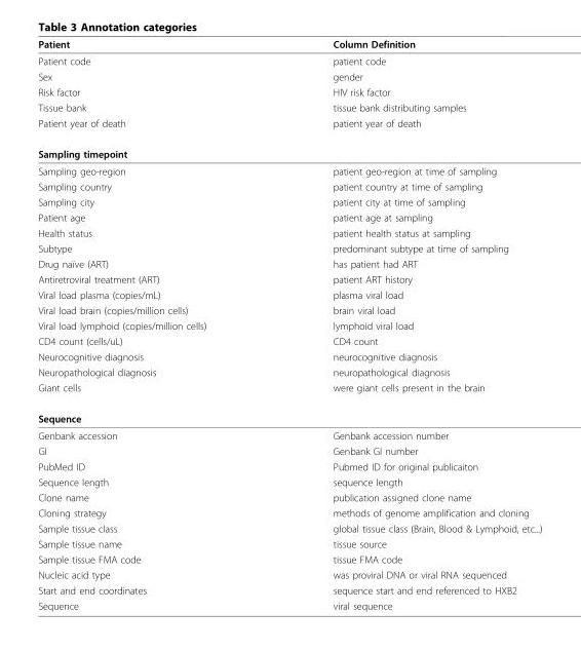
<table><thead><tr><td>Patient</td><td>Column Definition</td></tr></thead><tbody><tr><td>Patient code</td><td>patient code</td></tr><tr><td>Sex</td><td>gender</td></tr><tr><td>Risk factor</td><td>HIV risk factor</td></tr><tr><td>Tissue bank</td><td>tissue bank distributing samples</td></tr><tr><td>Patient year of death</td><td>patient year of death</td></tr><tr><td colspan="2">Sampling timepoint</td></tr><tr><td>Sampling geo-region</td><td>patient geo-region at time of sampling</td></tr><tr><td>Sampling country</td><td>patient country at time of sampling</td></tr><tr><td>Sampling city</td><td>patient city at time of sampling</td></tr><tr><td>Patient age</td><td>patient age at sampling</td></tr><tr><td>Health status</td><td>patient health status at sampling</td></tr><tr><td>Subtype</td><td>predominant subtype at time of sampling</td></tr><tr><td>Drug naïve (ART)</td><td>has patient had ART</td></tr><tr><td>Antiretroviral treatment (ART)</td><td>patient ART history</td></tr><tr><td>Viral load plasma (copies/mL)</td><td>plasma viral load</td></tr><tr><td>Viral load brain (copies/million cells)</td><td>brain viral load</td></tr><tr><td>Viral load lymphoid (copies/million cells)</td><td>lymphoid viral load</td></tr><tr><td>CD4 count (cells/uL)</td><td>CD4 count</td></tr><tr><td>Neurocognitive diagnosis</td><td>neurocognitive diagnosis</td></tr><tr><td>Neuropathological diagnosis</td><td>neuropathological diagnosis</td></tr><tr><td>Giant cells</td><td>were giant cells present in the brain</td></tr><tr><td colspan="2">Sequence</td></tr><tr><td>Genbank accession</td><td>Genbank accession number</td></tr><tr><td>GI</td><td>Genbank GI number</td></tr><tr><td>PubMed ID</td><td>Pubmed ID for original publicaiton</td></tr><tr><td>Sequence length</td><td>sequence length</td></tr><tr><td>Clone name</td><td>publication assigned clone name</td></tr><tr><td>Cloning strategy</td><td>methods of genome amplification and cloning</td></tr><tr><td>Sample tissue class</td><td>global tissue class (Brain, Blood &amp; Lymphoid, etc...)</td></tr><tr><td>Sample tissue name</td><td>tissue source</td></tr><tr><td>Sample tissue FMA code</td><td>tissue FMA code</td></tr><tr><td>Nucleic acid type</td><td>was proviral DNA or viral RNA sequenced</td></tr><tr><td>Start and end coordinates</td><td>sequence start and end referenced to HXB2</td></tr><tr><td>Sequence</td><td>viral sequence</td></tr></tbody></table>